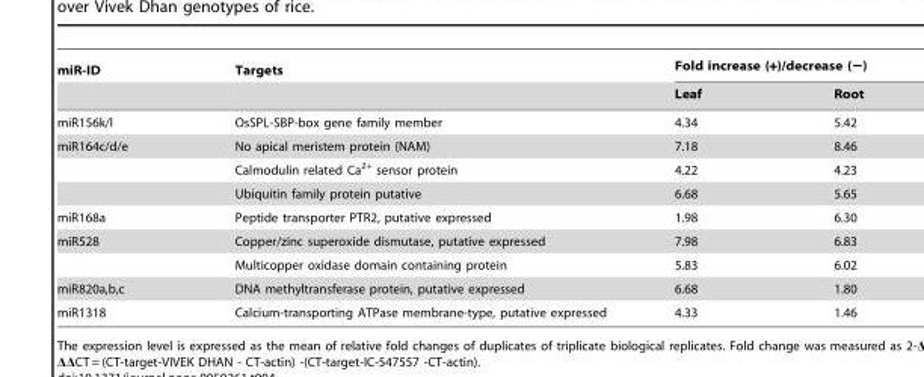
<table><thead><tr><td rowspan="2">miR-ID</td><td rowspan="2">Targets</td><td colspan="2">Fold increase (+)/decrease (−)</td></tr><tr><td>Leaf</td><td>Root</td></tr></thead><tbody><tr><td>miR156k/l</td><td>OsSPL-SBP-box gene family member</td><td>4.34</td><td>5.42</td></tr><tr><td rowspan="3">miR164c/d/e</td><td>No apical meristem protein (NAM)</td><td>7.18</td><td>8.46</td></tr><tr><td>Calmodulin related Ca<sup>2+</sup> sensor protein</td><td>4.22</td><td>4.23</td></tr><tr><td>Ubiquitin family protein putative</td><td>6.68</td><td>5.65</td></tr><tr><td>miR168a</td><td>Peptide transporter PTR2, putative expressed</td><td>1.98</td><td>6.30</td></tr><tr><td rowspan="2">miR528</td><td>Copper/zinc superoxide dismutase, putative expressed</td><td>7.98</td><td>6.83</td></tr><tr><td>Multicopper oxidase domain containing protein</td><td>5.83</td><td>6.02</td></tr><tr><td>miR820a,b,c</td><td>DNA methyltransferase protein, putative expressed</td><td>6.68</td><td>1.80</td></tr><tr><td>miR1318</td><td>Calcium-transporting ATPase membrane-type, putative expressed</td><td>4.33</td><td>1.46</td></tr></tbody></table>